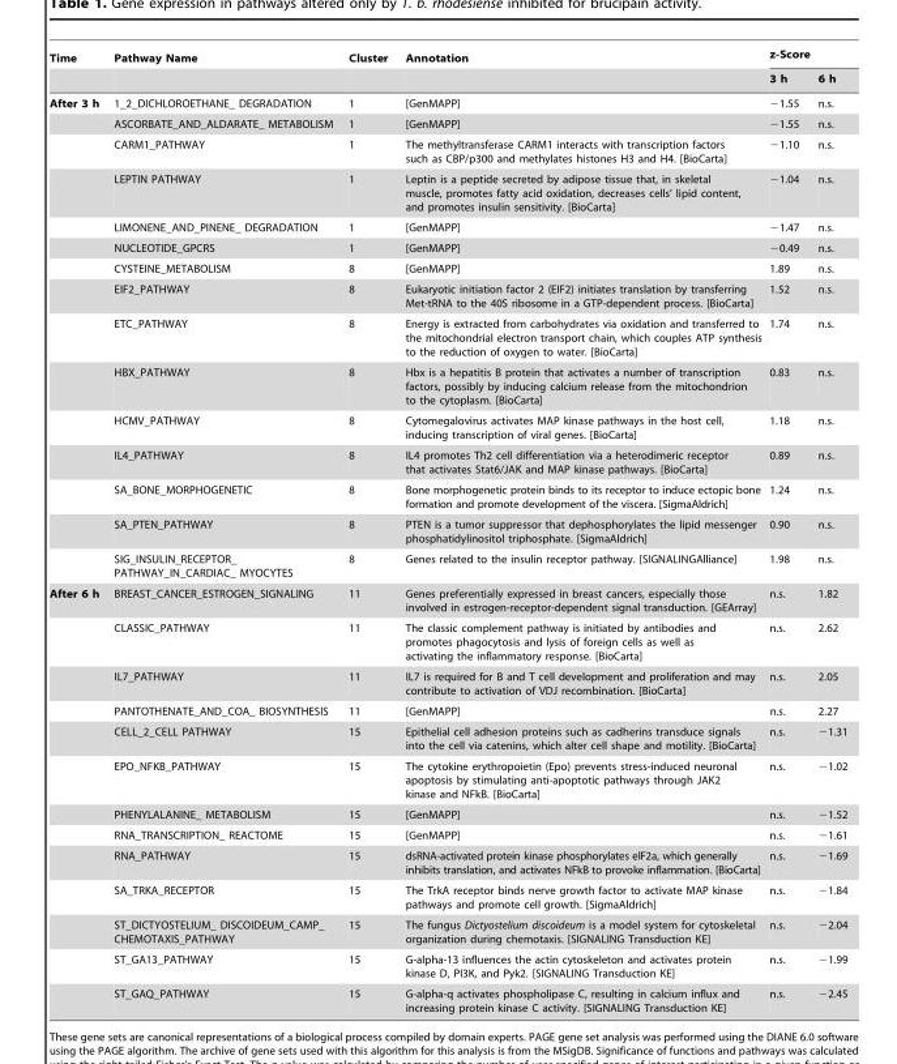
<table><thead><tr><td rowspan="2">Time</td><td rowspan="2">Pathway Name</td><td rowspan="2">Cluster</td><td rowspan="2">Annotation</td><td colspan="2">z-Score</td></tr><tr><td>3 h</td><td>6 h</td></tr></thead><tbody><tr><td rowspan="15">After 3 h</td><td>1_2_DICHLOROETHANE_ DEGRADATION</td><td>1</td><td>[GenMAPP]</td><td>−1.55</td><td>n.s.</td></tr><tr><td>ASCORBATE_AND_ALDARATE_ METABOLISM</td><td>1</td><td>[GenMAPP]</td><td>−1.55</td><td>n.s.</td></tr><tr><td>CARM1_PATHWAY</td><td>1</td><td>The methyltransferase CARM1 interacts with transcription factors such as CBP/p300 and methylates histones H3 and H4. [BioCarta]</td><td>−1.10</td><td>n.s.</td></tr><tr><td>LEPTIN PATHWAY</td><td>1</td><td>Leptin is a peptide secreted by adipose tissue that, in skeletal muscle, promotes fatty acid oxidation, decreases cells’ lipid content, and promotes insulin sensitivity. [BioCarta]</td><td>−1.04</td><td>n.s.</td></tr><tr><td>LIMONENE_AND_PINENE_ DEGRADATION</td><td>1</td><td>[GenMAPP]</td><td>−1.47</td><td>n.s.</td></tr><tr><td>NUCLEOTIDE_GPCRS</td><td>1</td><td>[GenMAPP]</td><td>−0.49</td><td>n.s.</td></tr><tr><td>CYSTEINE_METABOLISM</td><td>8</td><td>[GenMAPP]</td><td>1.89</td><td>n.s.</td></tr><tr><td>EIF2_PATHWAY</td><td>8</td><td>Eukaryotic initiation factor 2 (EIF2) initiates translation by transferring Met-tRNA to the 40S ribosome in a GTP-dependent process. [BioCarta]</td><td>1.52</td><td>n.s.</td></tr><tr><td>ETC_PATHWAY</td><td>8</td><td>Energy is extracted from carbohydrates via oxidation and transferred to the mitochondrial electron transport chain, which couples ATP synthesis to the reduction of oxygen to water. [BioCarta]</td><td>1.74</td><td>n.s.</td></tr><tr><td>HBX_PATHWAY</td><td>8</td><td>Hbx is a hepatitis B protein that activates a number of transcription factors, possibly by inducing calcium release from the mitochondrion to the cytoplasm. [BioCarta]</td><td>0.83</td><td>n.s.</td></tr><tr><td>HCMV_PATHWAY</td><td>8</td><td>Cytomegalovirus activates MAP kinase pathways in the host cell, inducing transcription of viral genes. [BioCarta]</td><td>1.18</td><td>n.s.</td></tr><tr><td>IL4_PATHWAY</td><td>8</td><td>IL4 promotes Th2 cell differentiation via a heterodimeric receptor that activates Stat6/JAK and MAP kinase pathways. [BioCarta]</td><td>0.89</td><td>n.s.</td></tr><tr><td>SA_BONE_MORPHOGENETIC</td><td>8</td><td>Bone morphogenetic protein binds to its receptor to induce ectopic bone formation and promote development of the viscera. [SigmaAldrich]</td><td>1.24</td><td>n.s.</td></tr><tr><td>SA_PTEN_PATHWAY</td><td>8</td><td>PTEN is a tumor suppressor that dephosphorylates the lipid messenger phosphatidylinositol triphosphate. [SigmaAldrich]</td><td>0.90</td><td>n.s.</td></tr><tr><td>SIG_INSULIN_RECEPTOR_ PATHWAY_IN_CARDIAC_ MYOCYTES</td><td>8</td><td>Genes related to the insulin receptor pathway. [SIGNALINGAlliance]</td><td>1.98</td><td>n.s.</td></tr><tr><td rowspan="13">After 6 h</td><td>BREAST_CANCER_ESTROGEN_SIGNALING</td><td>11</td><td>Genes preferentially expressed in breast cancers, especially those involved in estrogen-receptor-dependent signal transduction. [GEArray]</td><td>n.s.</td><td>1.82</td></tr><tr><td>CLASSIC_PATHWAY</td><td>11</td><td>The classic complement pathway is initiated by antibodies and promotes phagocytosis and lysis of foreign cells as well as activating the inflammatory response. [BioCarta]</td><td>n.s.</td><td>2.62</td></tr><tr><td>IL7_PATHWAY</td><td>11</td><td>IL7 is required for B and T cell development and proliferation and may contribute to activation of VDJ recombination. [BioCarta]</td><td>n.s.</td><td>2.05</td></tr><tr><td>PANTOTHENATE_AND_COA_ BIOSYNTHESIS</td><td>11</td><td>[GenMAPP]</td><td>n.s.</td><td>2.27</td></tr><tr><td>CELL_2_CELL PATHWAY</td><td>15</td><td>Epithelial cell adhesion proteins such as cadherins transduce signals into the cell via catenins, which alter cell shape and motility. [BioCarta]</td><td>n.s.</td><td>−1.31</td></tr><tr><td>EPO_NFKB_PATHWAY</td><td>15</td><td>The cytokine erythropoietin (Epo) prevents stress-induced neuronal apoptosis by stimulating anti-apoptotic pathways through JAK2 kinase and NFkB. [BioCarta]</td><td>n.s.</td><td>−1.02</td></tr><tr><td>PHENYLALANINE_ METABOLISM</td><td>15</td><td>[GenMAPP]</td><td>n.s.</td><td>−1.52</td></tr><tr><td>RNA_TRANSCRIPTION_ REACTOME</td><td>15</td><td>[GenMAPP]</td><td>n.s.</td><td>−1.61</td></tr><tr><td>RNA_PATHWAY</td><td>15</td><td>dsRNA-activated protein kinase phosphorylates elF2a, which generally inhibits translation, and activates NFkB to provoke inflammation. [BioCarta]</td><td>n.s.</td><td>−1.69</td></tr><tr><td>SA_TRKA_RECEPTOR</td><td>15</td><td>The TrkA receptor binds nerve growth factor to activate MAP kinase pathways and promote cell growth. [SigmaAldrich]</td><td>n.s.</td><td>−1.84</td></tr><tr><td>ST_DICTYOSTELIUM_ DISCOIDEUM_CAMP_ CHEMOTAXIS_PATHWAY</td><td>15</td><td>The fungus Dictyostelium discoideum is a model system for cytoskeletal organization during chemotaxis. [SIGNALING Transduction KE]</td><td>n.s.</td><td>−2.04</td></tr><tr><td>ST_GA13_PATHWAY</td><td>15</td><td>G-alpha-13 influences the actin cytoskeleton and activates protein kinase D, PI3K, and Pyk2. [SIGNALING Transduction KE]</td><td>n.s.</td><td>−1.99</td></tr><tr><td>ST_GAQ_PATHWAY</td><td>15</td><td>G-alpha-q activates phospholipase C, resulting in calcium influx and increasing protein kinase C activity. [SIGNALING Transduction KE]</td><td>n.s.</td><td>−2.45</td></tr></tbody></table>